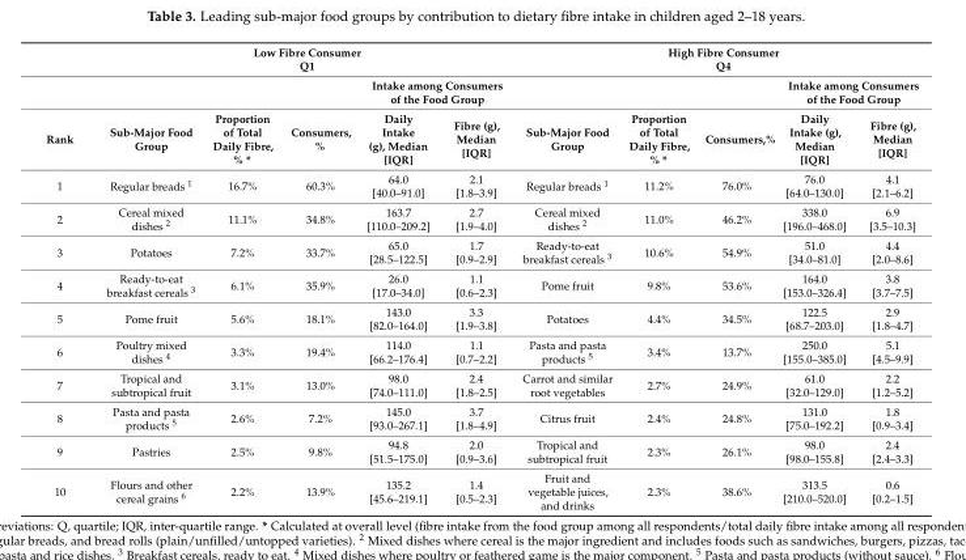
<table><thead><tr><td rowspan="3">Rank</td><td colspan="5">Low Fibre Consumer Q1</td><td colspan="5">High Fibre Consumer Q4</td></tr><tr><td rowspan="2">Sub-Major Food Group</td><td rowspan="2">Proportion of Total Daily Fibre, % *</td><td rowspan="2">Consumers, %</td><td colspan="2">Intake among Consumers of the Food Group</td><td rowspan="2">Sub-Major Food Group</td><td rowspan="2">Proportion of Total Daily Fibre, % *</td><td rowspan="2">Consumers,%</td><td colspan="2">Intake among Consumers of the Food Group</td></tr><tr><td>Daily Intake (g), Median [IQR]</td><td>Fibre (g), Median [IQR]</td><td>Daily Intake (g), Median [IQR]</td><td>Fibre (g), Median [IQR]</td></tr></thead><tbody><tr><td>1</td><td>Regular breads <sup>1</sup></td><td>16.7%</td><td>60.3%</td><td>64.0 [40.0–91.0]</td><td>2.1 [1.8–3.9]</td><td>Regular breads <sup>1</sup></td><td>11.2%</td><td>76.0%</td><td>76.0 [64.0–130.0]</td><td>4.1 [2.1–6.2]</td></tr><tr><td>2</td><td>Cereal mixed dishes <sup>2</sup></td><td>11.1%</td><td>34.8%</td><td>163.7 [110.0–209.2]</td><td>2.7 [1.9–4.0]</td><td>Cereal mixed dishes <sup>2</sup></td><td>11.0%</td><td>46.2%</td><td>338.0 [196.0–468.0]</td><td>6.9 [3.5–10.3]</td></tr><tr><td>3</td><td>Potatoes</td><td>7.2%</td><td>33.7%</td><td>65.0 [28.5–122.5]</td><td>1.7 [0.9–2.9]</td><td>Ready-to-eat breakfast cereals <sup>3</sup></td><td>10.6%</td><td>54.9%</td><td>51.0 [34.0–81.0]</td><td>4.4 [2.0–8.6]</td></tr><tr><td>4</td><td>Ready-to-eat breakfast cereals <sup>3</sup></td><td>6.1%</td><td>35.9%</td><td>26.0 [17.0–34.0]</td><td>1.1 [0.6–2.3]</td><td>Pome fruit</td><td>9.8%</td><td>53.6%</td><td>164.0 [153.0–326.4]</td><td>3.8 [3.7–7.5]</td></tr><tr><td>5</td><td>Pome fruit</td><td>5.6%</td><td>18.1%</td><td>143.0 [82.0–164.0]</td><td>3.3 [1.9–3.8]</td><td>Potatoes</td><td>4.4%</td><td>34.5%</td><td>122.5 [68.7–203.0]</td><td>2.9 [1.8–4.7]</td></tr><tr><td>6</td><td>Poultry mixed dishes <sup>4</sup></td><td>3.3%</td><td>19.4%</td><td>114.0 [66.2–176.4]</td><td>1.1 [0.7–2.2]</td><td>Pasta and pasta products <sup>5</sup></td><td>3.4%</td><td>13.7%</td><td>250.0 [155.0–385.0]</td><td>5.1 [4.5–9.9]</td></tr><tr><td>7</td><td>Tropical and subtropical fruit</td><td>3.1%</td><td>13.0%</td><td>98.0 [74.0–111.0]</td><td>2.4 [1.8–2.5]</td><td>Carrot and similar root vegetables</td><td>2.7%</td><td>24.9%</td><td>61.0 [32.0–129.0]</td><td>2.2 [1.2–5.2]</td></tr><tr><td>8</td><td>Pasta and pasta products <sup>5</sup></td><td>2.6%</td><td>7.2%</td><td>145.0 [93.0–267.1]</td><td>3.7 [1.8–4.9]</td><td>Citrus fruit</td><td>2.4%</td><td>24.8%</td><td>131.0 [75.0–192.2]</td><td>1.8 [0.9–3.4]</td></tr><tr><td>9</td><td>Pastries</td><td>2.5%</td><td>9.8%</td><td>94.8 [51.5–175.0]</td><td>2.0 [0.9–3.6]</td><td>Tropical and subtropical fruit</td><td>2.3%</td><td>26.1%</td><td>98.0 [98.0–155.8]</td><td>2.4 [2.4–3.3]</td></tr><tr><td>10</td><td>Flours and other cereal grains <sup>6</sup></td><td>2.2%</td><td>13.9%</td><td>135.2 [45.6–219.1]</td><td>1.4 [0.5–2.3]</td><td>Fruit and vegetable juices, and drinks</td><td>2.3%</td><td>38.6%</td><td>313.5 [210.0–520.0]</td><td>0.6 [0.2–1.5]</td></tr></tbody></table>